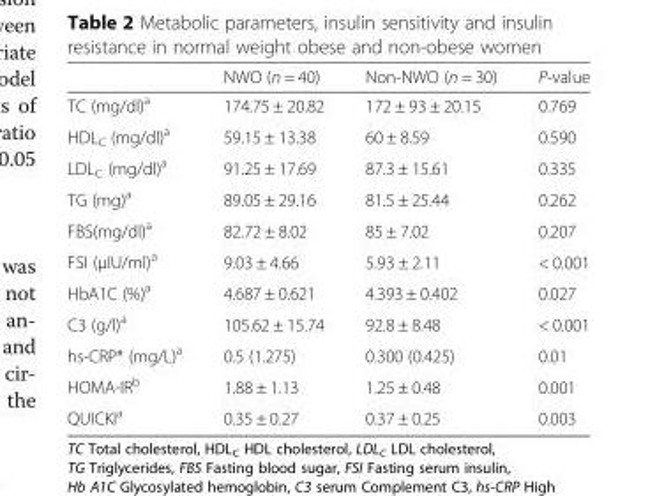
<table><thead><tr><td></td><td>NWO (n = 40)</td><td>Non-NWO (n = 30)</td><td>P-value</td></tr></thead><tbody><tr><td>TC (mg/dl)<sup>a</sup></td><td>174.75 ± 20.82</td><td>172 ± 93 ± 20.15</td><td>0.769</td></tr><tr><td>HDL<sub>C</sub> (mg/dl)<sup>a</sup></td><td>59.15 ± 13.38</td><td>60 ± 8.59</td><td>0.590</td></tr><tr><td>LDL<sub>C</sub> (mg/dl)<sup>a</sup></td><td>91.25 ± 17.69</td><td>87.3 ± 15.61</td><td>0.335</td></tr><tr><td>TG (mg)<sup>a</sup></td><td>89.05 ± 29.16</td><td>81.5 ± 25.44</td><td>0.262</td></tr><tr><td>FBS(mg/dl)<sup>a</sup></td><td>82.72 ± 8.02</td><td>85 ± 7.02</td><td>0.207</td></tr><tr><td>FSI (μIU/ml)<sup>a</sup></td><td>9.03 ± 4.66</td><td>5.93 ± 2.11</td><td>&lt; 0.001</td></tr><tr><td>HbA1C (%)<sup>a</sup></td><td>4.687 ± 0.621</td><td>4.393 ± 0.402</td><td>0.027</td></tr><tr><td>C3 (g/l)<sup>a</sup></td><td>105.62 ± 15.74</td><td>92.8 ± 8.48</td><td>&lt; 0.001</td></tr><tr><td>hs-CRP* (mg/L)<sup>a</sup></td><td>0.5 (1.275)</td><td>0.300 (0.425)</td><td>0.01</td></tr><tr><td>HOMA-IR<sup>b</sup></td><td>1.88 ± 1.13</td><td>1.25 ± 0.48</td><td>0.001</td></tr><tr><td>QUICKI<sup>a</sup></td><td>0.35 ± 0.27</td><td>0.37 ± 0.25</td><td>0.003</td></tr></tbody></table>